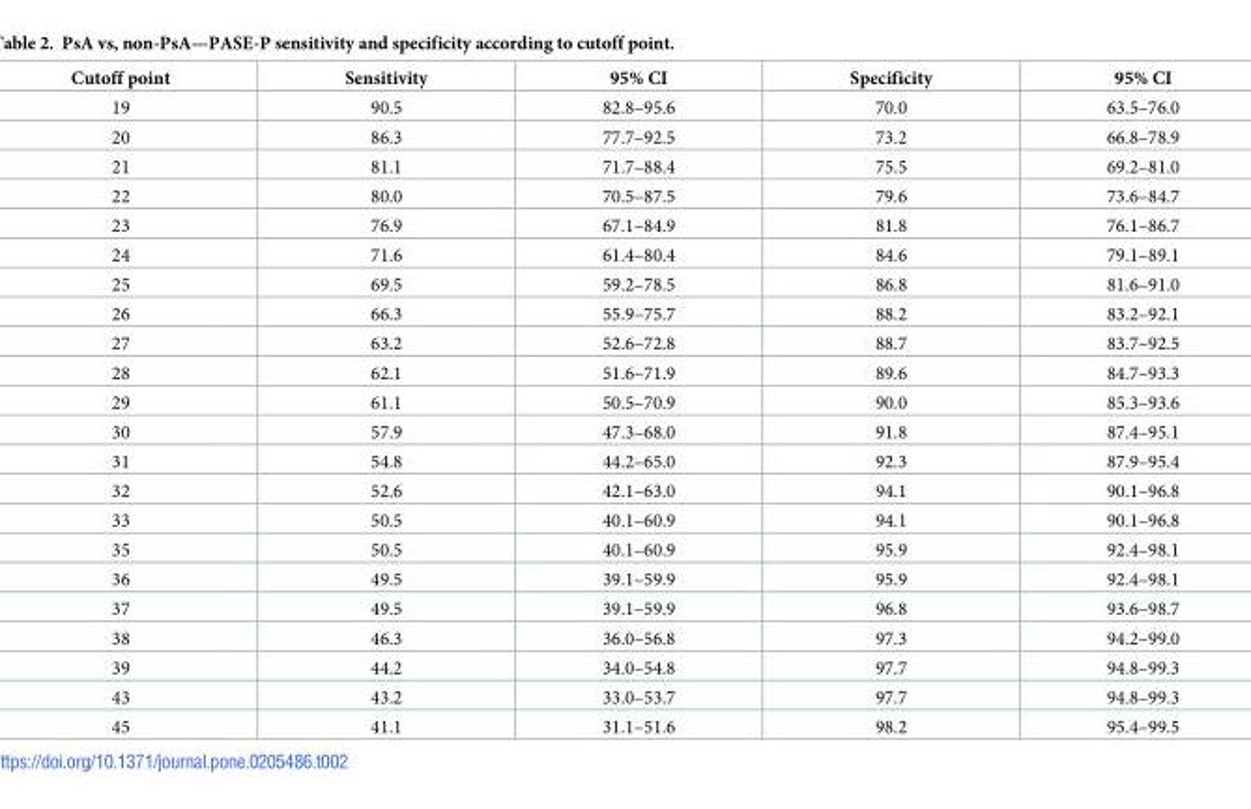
<table><thead><tr><td>Cutoff point</td><td>Sensitivity</td><td>95% CI</td><td>Specificity</td><td>95% CI</td></tr></thead><tbody><tr><td>19</td><td>90.5</td><td>82.8–95.6</td><td>70.0</td><td>63.5–76.0</td></tr><tr><td>20</td><td>86.3</td><td>77.7–92.5</td><td>73.2</td><td>66.8–78.9</td></tr><tr><td>21</td><td>81.1</td><td>71.7–88.4</td><td>75.5</td><td>69.2–81.0</td></tr><tr><td>22</td><td>80.0</td><td>70.5–87.5</td><td>79.6</td><td>73.6–84.7</td></tr><tr><td>23</td><td>76.9</td><td>67.1–84.9</td><td>81.8</td><td>76.1–86.7</td></tr><tr><td>24</td><td>71.6</td><td>61.4–80.4</td><td>84.6</td><td>79.1–89.1</td></tr><tr><td>25</td><td>69.5</td><td>59.2–78.5</td><td>86.8</td><td>81.6–91.0</td></tr><tr><td>26</td><td>66.3</td><td>55.9–75.7</td><td>88.2</td><td>83.2–92.1</td></tr><tr><td>27</td><td>63.2</td><td>52.6–72.8</td><td>88.7</td><td>83.7–92.5</td></tr><tr><td>28</td><td>62.1</td><td>51.6–71.9</td><td>89.6</td><td>84.7–93.3</td></tr><tr><td>29</td><td>61.1</td><td>50.5–70.9</td><td>90.0</td><td>85.3–93.6</td></tr><tr><td>30</td><td>57.9</td><td>47.3–68.0</td><td>91.8</td><td>87.4–95.1</td></tr><tr><td>31</td><td>54.8</td><td>44.2–65.0</td><td>92.3</td><td>87.9–95.4</td></tr><tr><td>32</td><td>52.6</td><td>42.1–63.0</td><td>94.1</td><td>90.1–96.8</td></tr><tr><td>33</td><td>50.5</td><td>40.1–60.9</td><td>94.1</td><td>90.1–96.8</td></tr><tr><td>35</td><td>50.5</td><td>40.1–60.9</td><td>95.9</td><td>92.4–98.1</td></tr><tr><td>36</td><td>49.5</td><td>39.1–59.9</td><td>95.9</td><td>92.4–98.1</td></tr><tr><td>37</td><td>49.5</td><td>39.1–59.9</td><td>96.8</td><td>93.6–98.7</td></tr><tr><td>38</td><td>46.3</td><td>36.0–56.8</td><td>97.3</td><td>94.2–99.0</td></tr><tr><td>39</td><td>44.2</td><td>34.0–54.8</td><td>97.7</td><td>94.8–99.3</td></tr><tr><td>43</td><td>43.2</td><td>33.0–53.7</td><td>97.7</td><td>94.8–99.3</td></tr><tr><td>45</td><td>41.1</td><td>31.1–51.6</td><td>98.2</td><td>95.4–99.5</td></tr></tbody></table>